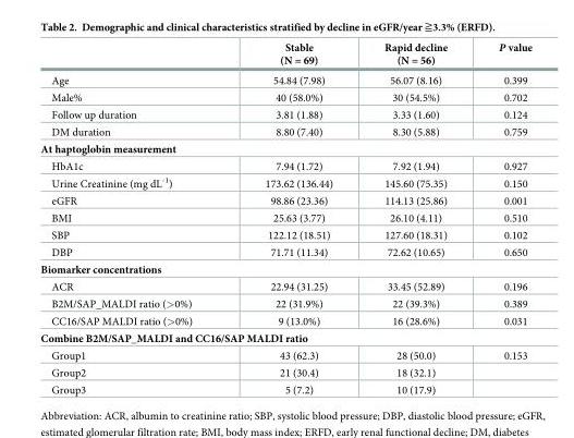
<table><thead><tr><td></td><td>Stable (N = 69)</td><td>Rapid decline (N = 56)</td><td>P value</td></tr></thead><tbody><tr><td>Age</td><td>54.84 (7.98)</td><td>56.07 (8.16)</td><td>0.399</td></tr><tr><td>Male%</td><td>40 (58.0%)</td><td>30 (54.5%)</td><td>0.702</td></tr><tr><td>Follow up duration</td><td>3.81 (1.88)</td><td>3.33 (1.60)</td><td>0.124</td></tr><tr><td>DM duration</td><td>8.80 (7.40)</td><td>8.30 (5.88)</td><td>0.759</td></tr><tr><td colspan="4">At haptoglobin measurement</td></tr><tr><td>HbA1c</td><td>7.94 (1.72)</td><td>7.92 (1.94)</td><td>0.927</td></tr><tr><td>Urine Creatinine (mg dL<sup>-1</sup>)</td><td>173.62 (136.44)</td><td>145.60 (75.35)</td><td>0.150</td></tr><tr><td>eGFR</td><td>98.86 (23.36)</td><td>114.13 (25.86)</td><td>0.001</td></tr><tr><td>BMI</td><td>25.63 (3.77)</td><td>26.10 (4.11)</td><td>0.510</td></tr><tr><td>SBP</td><td>122.12 (18.51)</td><td>127.60 (18.31)</td><td>0.102</td></tr><tr><td>DBP</td><td>71.71 (11.34)</td><td>72.62 (10.65)</td><td>0.650</td></tr><tr><td colspan="4">Biomarker concentrations</td></tr><tr><td>ACR</td><td>22.94 (31.25)</td><td>33.45 (52.89)</td><td>0.196</td></tr><tr><td>B2M/SAP_MALDI ratio (&gt;0%)</td><td>22 (31.9%)</td><td>22 (39.3%)</td><td>0.389</td></tr><tr><td>CC16/SAP MALDI ratio (&gt;0%)</td><td>9 (13.0%)</td><td>16 (28.6%)</td><td>0.031</td></tr><tr><td colspan="4">Combine B2M/SAP_MALDI and CC16/SAP MALDI ratio</td></tr><tr><td>Group1</td><td>43 (62.3)</td><td>28 (50.0)</td><td>0.153</td></tr><tr><td>Group2</td><td>21 (30.4)</td><td>18 (32.1)</td><td></td></tr><tr><td>Group3</td><td>5 (7.2)</td><td>10 (17.9)</td><td></td></tr></tbody></table>